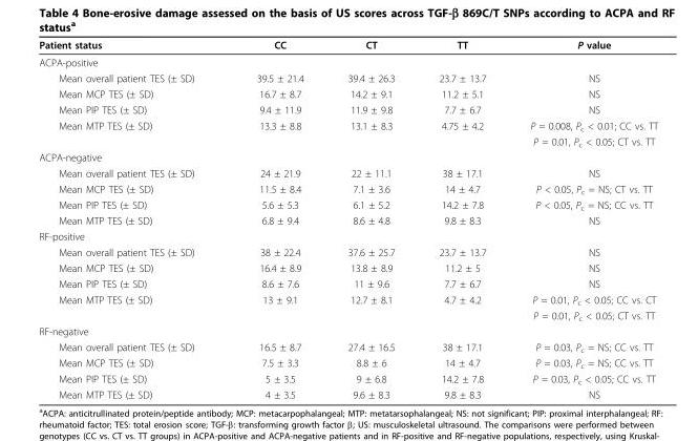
<table><thead><tr><td>Patient status</td><td>CC</td><td>CT</td><td>TT</td><td>P value</td></tr></thead><tbody><tr><td colspan="5">ACPA-positive</td></tr><tr><td>Mean overall patient TES (± SD)</td><td>39.5 ± 21.4</td><td>39.4 ± 26.3</td><td>23.7 ± 13.7</td><td>NS</td></tr><tr><td>Mean MCP TES (± SD)</td><td>16.7 ± 8.7</td><td>14.2 ± 9.1</td><td>11.2 ± 5.1</td><td>NS</td></tr><tr><td>Mean PIP TES (± SD)</td><td>9.4 ± 11.9</td><td>11.9 ± 9.8</td><td>7.7 ± 6.7</td><td>NS</td></tr><tr><td rowspan="2">Mean MTP TES (± SD)</td><td>13.3 ± 8.8</td><td>13.1 ± 8.3</td><td>4.75 ± 4.2</td><td>P = 0.008, P<sub>c</sub> &lt; 0.01; CC vs. TT</td></tr><tr><td></td><td></td><td></td><td>P = 0.01, P<sub>c</sub> &lt; 0.05; CT vs. TT</td></tr><tr><td colspan="5">ACPA-negative</td></tr><tr><td>Mean overall patient TES (± SD)</td><td>24 ± 21.9</td><td>22 ± 11.1</td><td>38 ± 17.1</td><td>NS</td></tr><tr><td>Mean MCP TES (± SD)</td><td>11.5 ± 8.4</td><td>7.1 ± 3.6</td><td>14 ± 4.7</td><td>P &lt; 0.05, P<sub>c</sub> = NS; CT vs. TT</td></tr><tr><td>Mean PIP TES (± SD)</td><td>5.6 ± 5.3</td><td>6.1 ± 5.2</td><td>14.2 ± 7.8</td><td>P &lt; 0.05, P<sub>c</sub> = NS; CC vs. TT</td></tr><tr><td>Mean MTP TES (± SD)</td><td>6.8 ± 9.4</td><td>8.6 ± 4.8</td><td>9.8 ± 8.3</td><td>NS</td></tr><tr><td colspan="5">RF-positive</td></tr><tr><td>Mean overall patient TES (± SD)</td><td>38 ± 22.4</td><td>37.6 ± 25.7</td><td>23.7 ± 13.7</td><td>NS</td></tr><tr><td>Mean MCP TES (± SD)</td><td>16.4 ± 8.9</td><td>13.8 ± 8.9</td><td>11.2 ± 5</td><td>NS</td></tr><tr><td>Mean PIP TES (± SD)</td><td>8.6 ± 7.6</td><td>11 ± 9.6</td><td>7.7 ± 6.7</td><td>NS</td></tr><tr><td rowspan="2">Mean MTP TES (± SD)</td><td>13 ± 9.1</td><td>12.7 ± 8.1</td><td>4.7 ± 4.2</td><td>P = 0.01, P<sub>c</sub> &lt; 0.05; CC vs. CT</td></tr><tr><td></td><td></td><td></td><td>P = 0.01, P<sub>c</sub> &lt; 0.05; CT vs. TT</td></tr><tr><td colspan="5">RF-negative</td></tr><tr><td>Mean overall patient TES (± SD)</td><td>16.5 ± 8.7</td><td>27.4 ± 16.5</td><td>38 ± 17.1</td><td>P = 0.03, P<sub>c</sub> = NS; CC vs. TT</td></tr><tr><td>Mean MCP TES (± SD)</td><td>7.5 ± 3.3</td><td>8.8 ± 6</td><td>14 ± 4.7</td><td>P = 0.03, P<sub>c</sub> = NS; CC vs. TT</td></tr><tr><td>Mean PIP TES (± SD)</td><td>5 ± 3.5</td><td>9 ± 6.8</td><td>14.2 ± 7.8</td><td>P = 0.03, P<sub>c</sub> &lt; 0.05; CC vs. TT</td></tr><tr><td>Mean MTP TES (± SD)</td><td>4 ± 3.5</td><td>9.6 ± 8.3</td><td>9.8 ± 8.3</td><td>NS</td></tr></tbody></table>